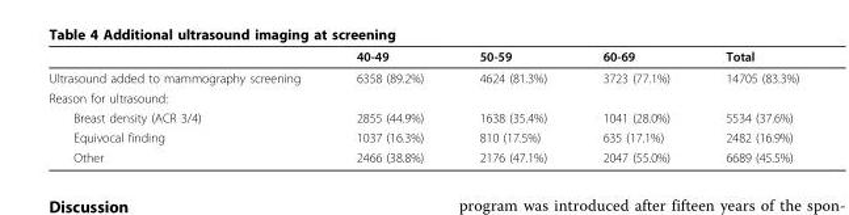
<table><thead><tr><td></td><td>40-49</td><td>50-59</td><td>60-69</td><td>Total</td></tr></thead><tbody><tr><td>Ultrasound added to mammography screening</td><td>6358 (89.2%)</td><td>4624 (81.3%)</td><td>3723 (77.1%)</td><td>14705 (83.3%)</td></tr><tr><td colspan="5">Reason for ultrasound:</td></tr><tr><td>Breast density (ACR 3/4)</td><td>2855 (44.9%)</td><td>1638 (35.4%)</td><td>1041 (28.0%)</td><td>5534 (37.6%)</td></tr><tr><td>Equivocal finding</td><td>1037 (16.3%)</td><td>810 (17.5%)</td><td>635 (17.1%)</td><td>2482 (16.9%)</td></tr><tr><td>Other</td><td>2466 (38.8%)</td><td>2176 (47.1%)</td><td>2047 (55.0%)</td><td>6689 (45.5%)</td></tr></tbody></table>